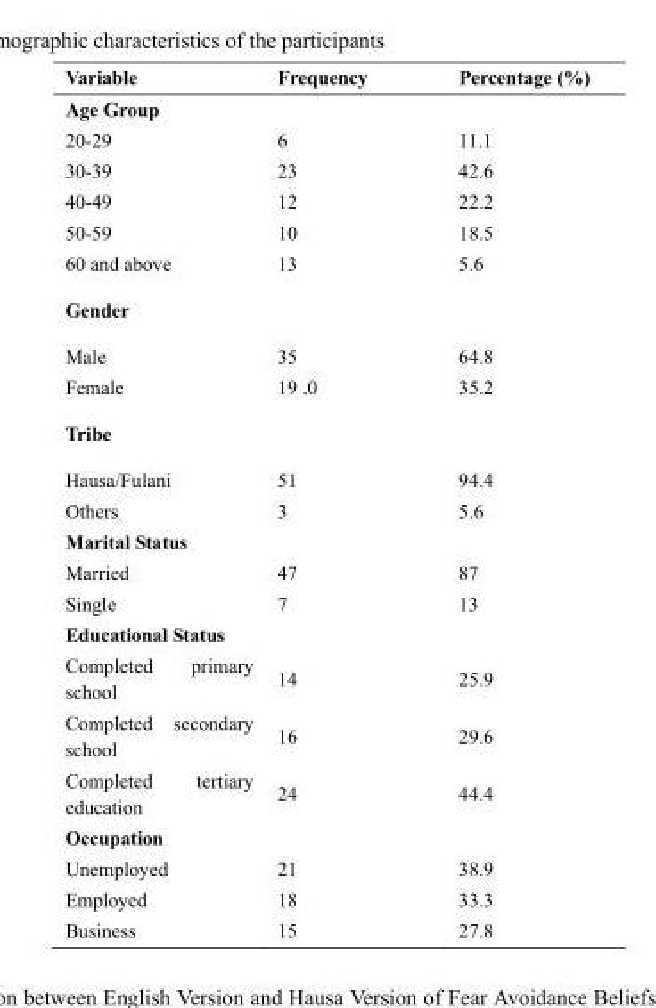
<table><thead><tr><td>Variable</td><td>Frequency</td><td>Percentage (%)</td></tr></thead><tbody><tr><td colspan="3">Age Group</td></tr><tr><td>20-29</td><td>6</td><td>11.1</td></tr><tr><td>30-39</td><td>23</td><td>42.6</td></tr><tr><td>40-49</td><td>12</td><td>22.2</td></tr><tr><td>50-59</td><td>10</td><td>18.5</td></tr><tr><td>60 and above</td><td>13</td><td>5.6</td></tr><tr><td colspan="3">Gender</td></tr><tr><td>Male</td><td>35</td><td>64.8</td></tr><tr><td>Female</td><td>19 .0</td><td>35.2</td></tr><tr><td colspan="3">Tribe</td></tr><tr><td>Hausa/Fulani</td><td>51</td><td>94.4</td></tr><tr><td>Others</td><td>3</td><td>5.6</td></tr><tr><td colspan="3">Marital Status</td></tr><tr><td>Married</td><td>47</td><td>87</td></tr><tr><td>Single</td><td>7</td><td>13</td></tr><tr><td colspan="3">Educational Status</td></tr><tr><td>Completed primary school</td><td>14</td><td>25.9</td></tr><tr><td>Completed secondary school</td><td>16</td><td>29.6</td></tr><tr><td>Completed tertiary education</td><td>24</td><td>44.4</td></tr><tr><td colspan="3">Occupation</td></tr><tr><td>Unemployed</td><td>21</td><td>38.9</td></tr><tr><td>Employed</td><td>18</td><td>33.3</td></tr><tr><td>Business</td><td>15</td><td>27.8</td></tr></tbody></table>